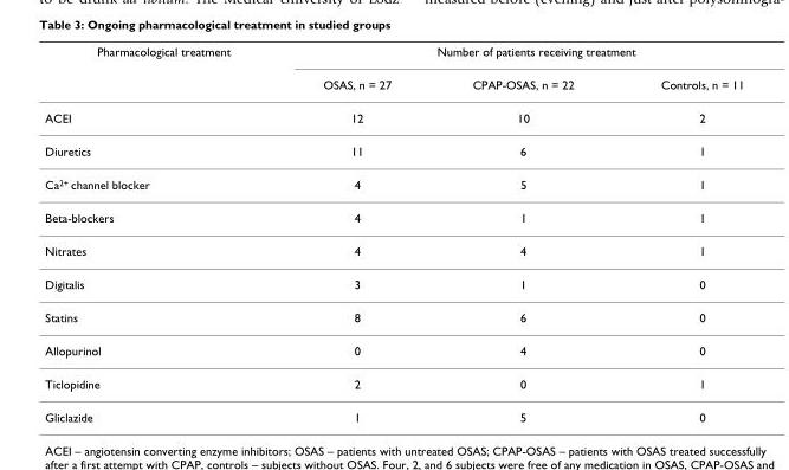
<table><thead><tr><td rowspan="2">Pharmacological treatment</td><td colspan="3">Number of patients receiving treatment</td></tr><tr><td>OSAS, n = 27</td><td>CPAP-OSAS, n = 22</td><td>Controls, n = 11</td></tr></thead><tbody><tr><td>ACEI</td><td>12</td><td>10</td><td>2</td></tr><tr><td>Diuretics</td><td>11</td><td>6</td><td>1</td></tr><tr><td>Ca<sup>2+</sup> channel blocker</td><td>4</td><td>5</td><td>1</td></tr><tr><td>Beta-blockers</td><td>4</td><td>1</td><td>1</td></tr><tr><td>Nitrates</td><td>4</td><td>4</td><td>1</td></tr><tr><td>Digitalis</td><td>3</td><td>1</td><td>0</td></tr><tr><td>Statins</td><td>8</td><td>6</td><td>0</td></tr><tr><td>Allopurinol</td><td>0</td><td>4</td><td>0</td></tr><tr><td>Ticlopidine</td><td>2</td><td>0</td><td>1</td></tr><tr><td>Gliclazide</td><td>1</td><td>5</td><td>0</td></tr></tbody></table>